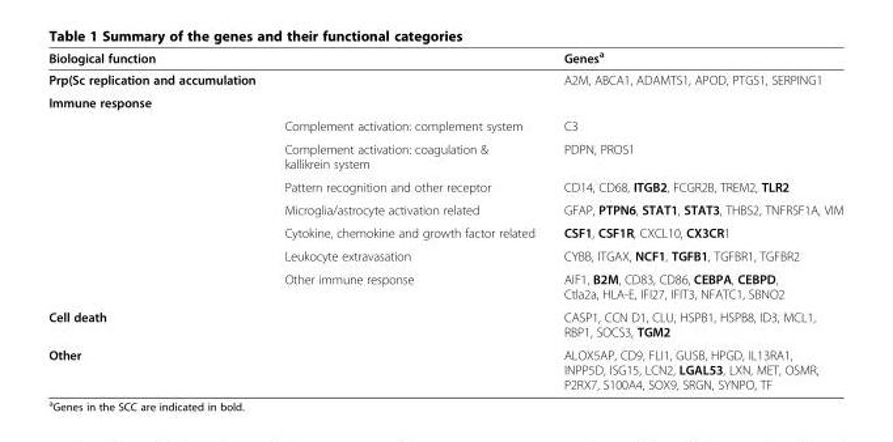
<table><thead><tr><td>Biological function</td><td></td><td>Genes<sup>a</sup></td></tr></thead><tbody><tr><td>Prp(Sc replication and accumulation</td><td></td><td>A2M, ABCA1, ADAMTS1, APOD, PTGS1, SERPING1</td></tr><tr><td colspan="3">Immune response</td></tr><tr><td></td><td>Complement activation: complement system</td><td>C3</td></tr><tr><td></td><td>Complement activation: coagulation &amp; kallikrein system</td><td>PDPN, PROS1</td></tr><tr><td></td><td>Pattern recognition and other receptor</td><td>CD14, CD68, ITGB2, FCGR2B, TREM2, TLR2</td></tr><tr><td></td><td>Microglia/astrocyte activation related</td><td>GFAP, PTPN6, STAT1, STAT3, THBS2, TNFRSF1A, VIM</td></tr><tr><td></td><td>Cytokine, chemokine and growth factor related</td><td>CSF1, CSF1R, CXCL10, CX3CR1</td></tr><tr><td></td><td>Leukocyte extravasation</td><td>CYBB, ITGAX, NCF1, TGFB1, TGFBR1, TGFBR2</td></tr><tr><td></td><td>Other immune response</td><td>AIF1, B2M, CD83, CD86, CEBPA, CEBPD, Ctla2a, HLA-E, IFI27, IFIT3, NFATC1, SBNO2</td></tr><tr><td>Cell death</td><td></td><td>CASP1, CCN D1, CLU, HSPB1, HSPB8, ID3, MCL1, RBP1, SOCS3, TGM2</td></tr><tr><td>Other</td><td></td><td>ALOX5AP, CD9, FLI1, GUSB, HPGD, IL13RA1, INPP5D, ISG15, LCN2, LGAL53, LXN, MET, OSMR, P2RX7, S100A4, SOX9, SRGN, SYNPO, TF</td></tr></tbody></table>